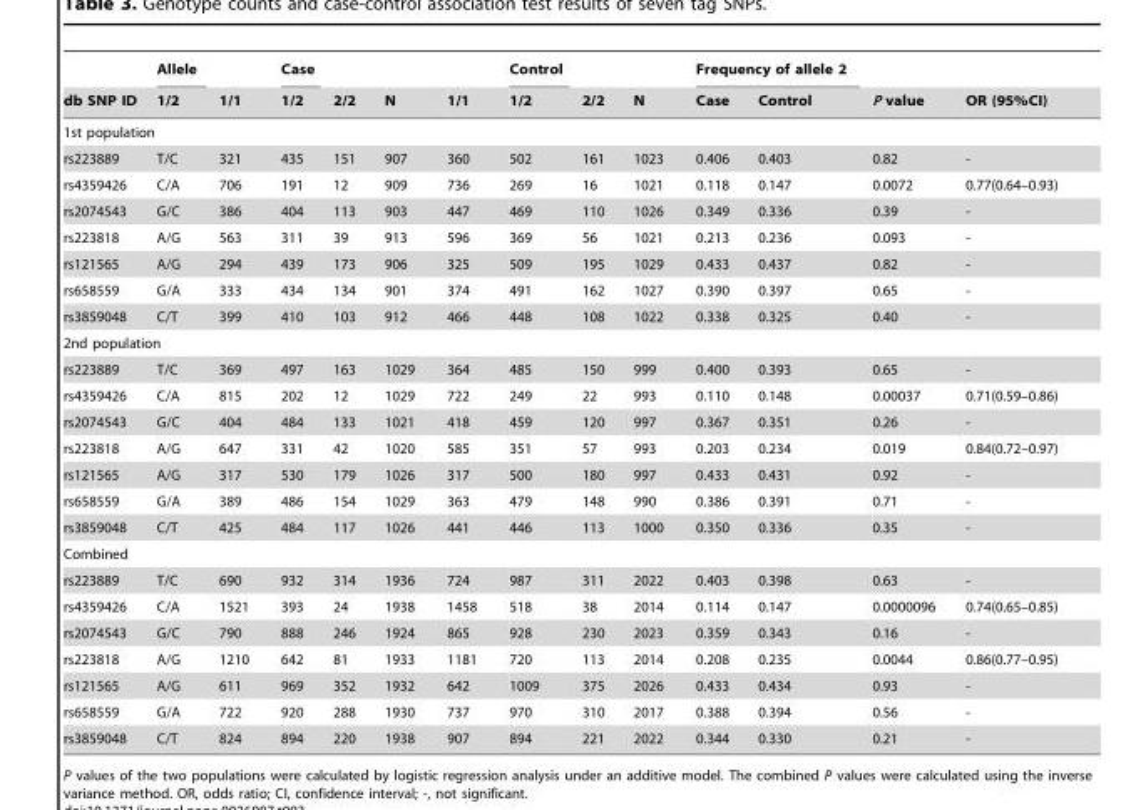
<table><thead><tr><td rowspan="2">db SNP ID</td><td rowspan="2">Allele 1/2</td><td rowspan="2">1/1</td><td rowspan="2">Case 1/2</td><td rowspan="2">2/2</td><td rowspan="2">N</td><td rowspan="2">1/1</td><td rowspan="2">Control 1/2</td><td rowspan="2">2/2</td><td rowspan="2">N</td><td colspan="2">Frequency of allele 2</td><td rowspan="2">P value</td><td rowspan="2">OR (95%CI)</td></tr><tr><td>Case</td><td>Control</td></tr></thead><tbody><tr><td colspan="14">1st population</td></tr><tr><td>rs223889</td><td>T/C</td><td>321</td><td>435</td><td>151</td><td>907</td><td>360</td><td>502</td><td>161</td><td>1023</td><td>0.406</td><td>0.403</td><td>0.82</td><td>-</td></tr><tr><td>rs4359426</td><td>C/A</td><td>706</td><td>191</td><td>12</td><td>909</td><td>736</td><td>269</td><td>16</td><td>1021</td><td>0.118</td><td>0.147</td><td>0.0072</td><td>0.77(0.64–0.93)</td></tr><tr><td>rs2074543</td><td>G/C</td><td>386</td><td>404</td><td>113</td><td>903</td><td>447</td><td>469</td><td>110</td><td>1026</td><td>0.349</td><td>0.336</td><td>0.39</td><td>-</td></tr><tr><td>rs223818</td><td>A/G</td><td>563</td><td>311</td><td>39</td><td>913</td><td>596</td><td>369</td><td>56</td><td>1021</td><td>0.213</td><td>0.236</td><td>0.093</td><td>-</td></tr><tr><td>rs121565</td><td>A/G</td><td>294</td><td>439</td><td>173</td><td>906</td><td>325</td><td>509</td><td>195</td><td>1029</td><td>0.433</td><td>0.437</td><td>0.82</td><td>-</td></tr><tr><td>rs658559</td><td>G/A</td><td>333</td><td>434</td><td>134</td><td>901</td><td>374</td><td>491</td><td>162</td><td>1027</td><td>0.390</td><td>0.397</td><td>0.65</td><td>-</td></tr><tr><td>rs3859048</td><td>C/T</td><td>399</td><td>410</td><td>103</td><td>912</td><td>466</td><td>448</td><td>108</td><td>1022</td><td>0.338</td><td>0.325</td><td>0.40</td><td>-</td></tr><tr><td colspan="14">2nd population</td></tr><tr><td>rs223889</td><td>T/C</td><td>369</td><td>497</td><td>163</td><td>1029</td><td>364</td><td>485</td><td>150</td><td>999</td><td>0.400</td><td>0.393</td><td>0.65</td><td>-</td></tr><tr><td>rs4359426</td><td>C/A</td><td>815</td><td>202</td><td>12</td><td>1029</td><td>722</td><td>249</td><td>22</td><td>993</td><td>0.110</td><td>0.148</td><td>0.00037</td><td>0.71(0.59–0.86)</td></tr><tr><td>rs2074543</td><td>G/C</td><td>404</td><td>484</td><td>133</td><td>1021</td><td>418</td><td>459</td><td>120</td><td>997</td><td>0.367</td><td>0.351</td><td>0.26</td><td>-</td></tr><tr><td>rs223818</td><td>A/G</td><td>647</td><td>331</td><td>42</td><td>1020</td><td>585</td><td>351</td><td>57</td><td>993</td><td>0.203</td><td>0.234</td><td>0.019</td><td>0.84(0.72–0.97)</td></tr><tr><td>rs121565</td><td>A/G</td><td>317</td><td>530</td><td>179</td><td>1026</td><td>317</td><td>500</td><td>180</td><td>997</td><td>0.433</td><td>0.431</td><td>0.92</td><td>-</td></tr><tr><td>rs658559</td><td>G/A</td><td>389</td><td>486</td><td>154</td><td>1029</td><td>363</td><td>479</td><td>148</td><td>990</td><td>0.386</td><td>0.391</td><td>0.71</td><td>-</td></tr><tr><td>rs3859048</td><td>C/T</td><td>425</td><td>484</td><td>117</td><td>1026</td><td>441</td><td>446</td><td>113</td><td>1000</td><td>0.350</td><td>0.336</td><td>0.35</td><td>-</td></tr><tr><td colspan="14">Combined</td></tr><tr><td>rs223889</td><td>T/C</td><td>690</td><td>932</td><td>314</td><td>1936</td><td>724</td><td>987</td><td>311</td><td>2022</td><td>0.403</td><td>0.398</td><td>0.63</td><td>-</td></tr><tr><td>rs4359426</td><td>C/A</td><td>1521</td><td>393</td><td>24</td><td>1938</td><td>1458</td><td>518</td><td>38</td><td>2014</td><td>0.114</td><td>0.147</td><td>0.0000096</td><td>0.74(0.65–0.85)</td></tr><tr><td>rs2074543</td><td>G/C</td><td>790</td><td>888</td><td>246</td><td>1924</td><td>865</td><td>928</td><td>230</td><td>2023</td><td>0.359</td><td>0.343</td><td>0.16</td><td>-</td></tr><tr><td>rs223818</td><td>A/G</td><td>1210</td><td>642</td><td>81</td><td>1933</td><td>1181</td><td>720</td><td>113</td><td>2014</td><td>0.208</td><td>0.235</td><td>0.0044</td><td>0.86(0.77–0.95)</td></tr><tr><td>rs121565</td><td>A/G</td><td>611</td><td>969</td><td>352</td><td>1932</td><td>642</td><td>1009</td><td>375</td><td>2026</td><td>0.433</td><td>0.434</td><td>0.93</td><td>-</td></tr><tr><td>rs658559</td><td>G/A</td><td>722</td><td>920</td><td>288</td><td>1930</td><td>737</td><td>970</td><td>310</td><td>2017</td><td>0.388</td><td>0.394</td><td>0.56</td><td>-</td></tr><tr><td>rs3859048</td><td>C/T</td><td>824</td><td>894</td><td>220</td><td>1938</td><td>907</td><td>894</td><td>221</td><td>2022</td><td>0.344</td><td>0.330</td><td>0.21</td><td>-</td></tr></tbody></table>